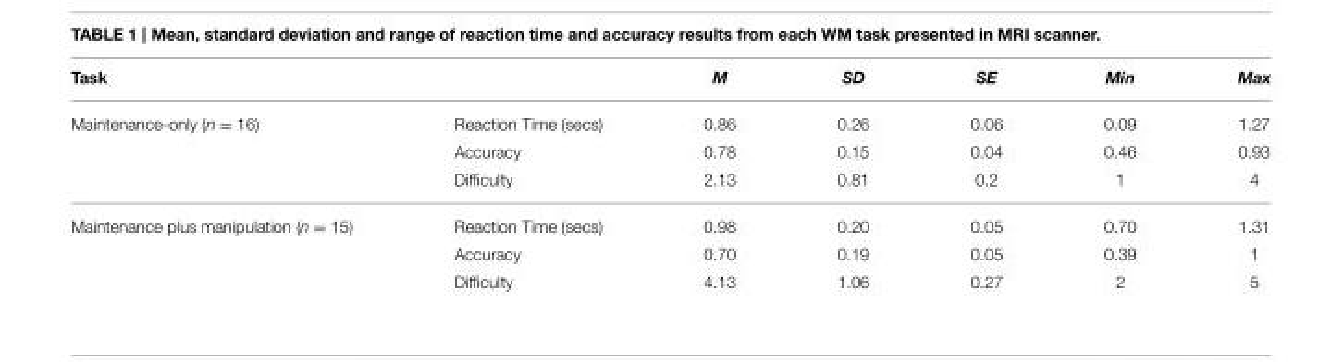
<table><thead><tr><td>Task</td><td></td><td>M</td><td>SD</td><td>SE</td><td>Min</td><td>Max</td></tr></thead><tbody><tr><td rowspan="3">Maintenance-only (n = 16)</td><td>Reaction Time (secs)</td><td>0.86</td><td>0.26</td><td>0.06</td><td>0.09</td><td>1.27</td></tr><tr><td>Accuracy</td><td>0.78</td><td>0.15</td><td>0.04</td><td>0.46</td><td>0.93</td></tr><tr><td>Difficulty</td><td>2.13</td><td>0.81</td><td>0.2</td><td>1</td><td>4</td></tr><tr><td rowspan="3">Maintenance plus manipulation (n = 15)</td><td>Reaction Time (secs)</td><td>0.98</td><td>0.20</td><td>0.05</td><td>0.70</td><td>1.31</td></tr><tr><td>Accuracy</td><td>0.70</td><td>0.19</td><td>0.05</td><td>0.39</td><td>1</td></tr><tr><td>Difficulty</td><td>4.13</td><td>1.06</td><td>0.27</td><td>2</td><td>5</td></tr></tbody></table>